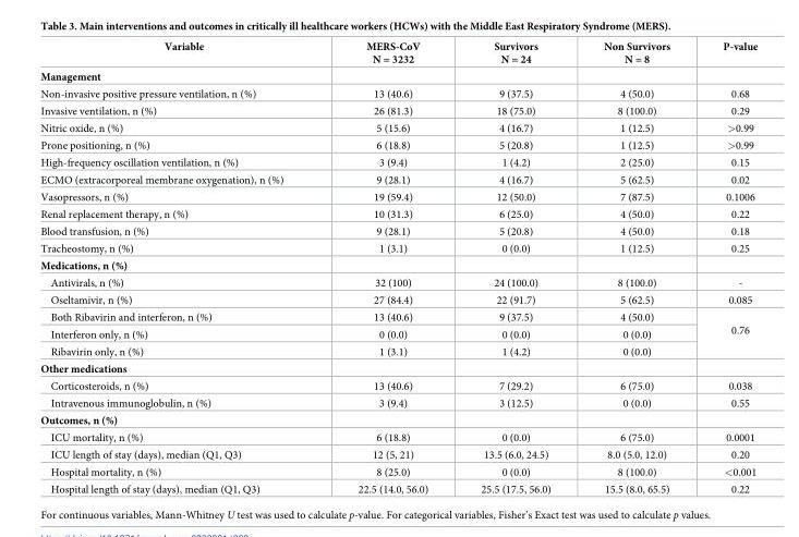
<table><thead><tr><td>Variable</td><td>MERS-CoV N = 3232</td><td>Survivors N = 24</td><td>Non Survivors N = 8</td><td>P-value</td></tr></thead><tbody><tr><td colspan="5">Management</td></tr><tr><td>Non-invasive positive pressure ventilation, n (%)</td><td>13 (40.6)</td><td>9 (37.5)</td><td>4 (50.0)</td><td>0.68</td></tr><tr><td>Invasive ventilation, n (%)</td><td>26 (81.3)</td><td>18 (75.0)</td><td>8 (100.0)</td><td>0.29</td></tr><tr><td>Nitric oxide, n (%)</td><td>5 (15.6)</td><td>4 (16.7)</td><td>1 (12.5)</td><td>&gt;0.99</td></tr><tr><td>Prone positioning, n (%)</td><td>6 (18.8)</td><td>5 (20.8)</td><td>1 (12.5)</td><td>&gt;0.99</td></tr><tr><td>High-frequency oscillation ventilation, n (%)</td><td>3 (9.4)</td><td>1 (4.2)</td><td>2 (25.0)</td><td>0.15</td></tr><tr><td>ECMO (extracorporeal membrane oxygenation), n (%)</td><td>9 (28.1)</td><td>4 (16.7)</td><td>5 (62.5)</td><td>0.02</td></tr><tr><td>Vasopressors, n (%)</td><td>19 (59.4)</td><td>12 (50.0)</td><td>7 (87.5)</td><td>0.1006</td></tr><tr><td>Renal replacement therapy, n (%)</td><td>10 (31.3)</td><td>6 (25.0)</td><td>4 (50.0)</td><td>0.22</td></tr><tr><td>Blood transfusion, n (%)</td><td>9 (28.1)</td><td>5 (20.8)</td><td>4 (50.0)</td><td>0.18</td></tr><tr><td>Tracheostomy, n (%)</td><td>1 (3.1)</td><td>0 (0.0)</td><td>1 (12.5)</td><td>0.25</td></tr><tr><td colspan="5">Medications, n (%)</td></tr><tr><td>Antivirals, n (%)</td><td>32 (100)</td><td>24 (100.0)</td><td>8 (100.0)</td><td>-</td></tr><tr><td>Oseltamivir, n (%)</td><td>27 (84.4)</td><td>22 (91.7)</td><td>5 (62.5)</td><td>0.085</td></tr><tr><td>Both Ribavirin and interferon, n (%)</td><td>13 (40.6)</td><td>9 (37.5)</td><td>4 (50.0)</td><td rowspan="3">0.76</td></tr><tr><td>Interferon only, n (%)</td><td>0 (0.0)</td><td>0 (0.0)</td><td>0 (0.0)</td></tr><tr><td>Ribavirin only, n (%)</td><td>1 (3.1)</td><td>1 (4.2)</td><td>0 (0.0)</td></tr><tr><td colspan="5">Other medications</td></tr><tr><td>Corticosteroids, n (%)</td><td>13 (40.6)</td><td>7 (29.2)</td><td>6 (75.0)</td><td>0.038</td></tr><tr><td>Intravenous immunoglobulin, n (%)</td><td>3 (9.4)</td><td>3 (12.5)</td><td>0 (0.0)</td><td>0.55</td></tr><tr><td colspan="5">Outcomes, n (%)</td></tr><tr><td>ICU mortality, n (%)</td><td>6 (18.8)</td><td>0 (0.0)</td><td>6 (75.0)</td><td>0.0001</td></tr><tr><td>ICU length of stay (days), median (Q1, Q3)</td><td>12 (5, 21)</td><td>13.5 (6.0, 24.5)</td><td>8.0 (5.0, 12.0)</td><td>0.20</td></tr><tr><td>Hospital mortality, n (%)</td><td>8 (25.0)</td><td>0 (0.0)</td><td>8 (100.0)</td><td>&lt;0.001</td></tr><tr><td>Hospital length of stay (days), median (Q1, Q3)</td><td>22.5 (14.0, 56.0)</td><td>25.5 (17.5, 56.0)</td><td>15.5 (8.0, 65.5)</td><td>0.22</td></tr></tbody></table>